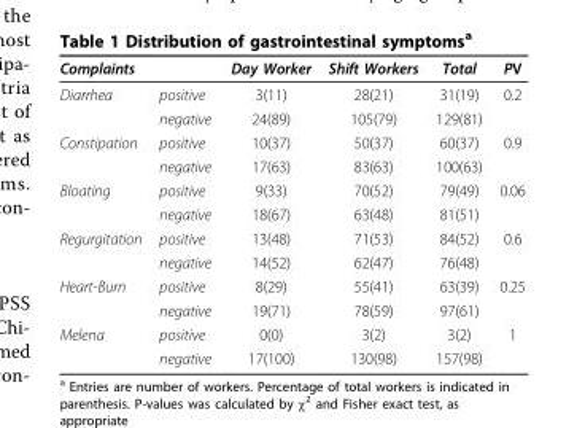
<table><thead><tr><td>Complaints</td><td></td><td>Day Worker</td><td>Shift Workers</td><td>Total</td><td>PV</td></tr></thead><tbody><tr><td rowspan="2">Diarrhea</td><td>positive</td><td>3(11)</td><td>28(21)</td><td>31(19)</td><td>0.2</td></tr><tr><td>negative</td><td>24(89)</td><td>105(79)</td><td>129(81)</td><td></td></tr><tr><td rowspan="2">Constipation</td><td>positive</td><td>10(37)</td><td>50(37)</td><td>60(37)</td><td>0.9</td></tr><tr><td>negative</td><td>17(63)</td><td>83(63)</td><td>100(63)</td><td></td></tr><tr><td rowspan="2">Bloating</td><td>positive</td><td>9(33)</td><td>70(52)</td><td>79(49)</td><td>0.06</td></tr><tr><td>negative</td><td>18(67)</td><td>63(48)</td><td>81(51)</td><td></td></tr><tr><td rowspan="2">Regurgitation</td><td>positive</td><td>13(48)</td><td>71(53)</td><td>84(52)</td><td>0.6</td></tr><tr><td>negative</td><td>14(52)</td><td>62(47)</td><td>76(48)</td><td></td></tr><tr><td rowspan="2">Heart-Burn</td><td>positive</td><td>8(29)</td><td>55(41)</td><td>63(39)</td><td>0.25</td></tr><tr><td>negative</td><td>19(71)</td><td>78(59)</td><td>97(61)</td><td></td></tr><tr><td rowspan="2">Melena</td><td>positive</td><td>0(0)</td><td>3(2)</td><td>3(2)</td><td>1</td></tr><tr><td>negative</td><td>17(100)</td><td>130(98)</td><td>157(98)</td><td></td></tr></tbody></table>